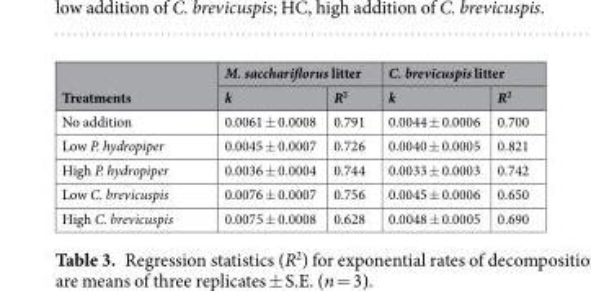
<table><thead><tr><td rowspan="2">Treatments</td><td colspan="2">M. sacchariflorus litter</td><td colspan="2">C. brevicuspis litter</td></tr><tr><td>k</td><td>R<sup>2</sup></td><td>k</td><td>R<sup>2</sup></td></tr></thead><tbody><tr><td>No addition</td><td>0.0061 ± 0.0008</td><td>0.791</td><td>0.0044 ± 0.0006</td><td>0.700</td></tr><tr><td>Low P. hydropiper</td><td>0.0045 ± 0.0007</td><td>0.726</td><td>0.0040 ± 0.0005</td><td>0.821</td></tr><tr><td>High P. hydropiper</td><td>0.0036 ± 0.0004</td><td>0.744</td><td>0.0033 ± 0.0003</td><td>0.742</td></tr><tr><td>Low C. brevicuspis</td><td>0.0076 ± 0.0007</td><td>0.756</td><td>0.0045 ± 0.0006</td><td>0.650</td></tr><tr><td>High C. brevicuspis</td><td>0.0075 ± 0.0008</td><td>0.628</td><td>0.0048 ± 0.0005</td><td>0.690</td></tr></tbody></table>